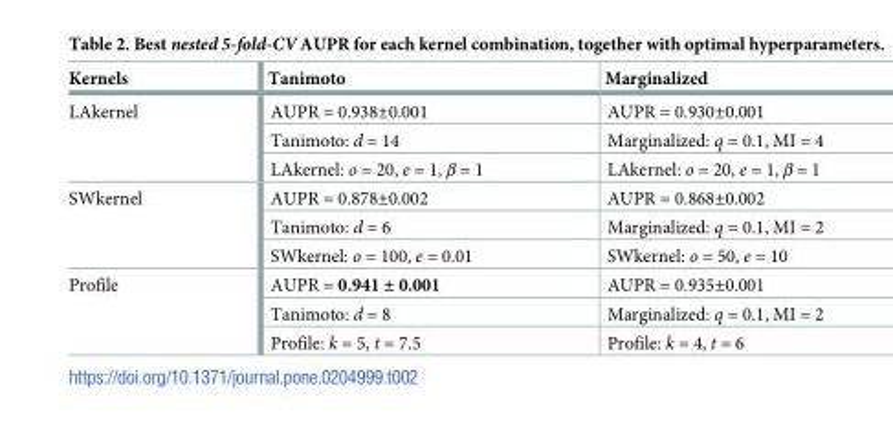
<table><thead><tr><td>Kernels</td><td>Tanimoto</td><td>Marginalized</td></tr></thead><tbody><tr><td rowspan="3">LAkernel</td><td>AUPR = 0.938±0.001</td><td>AUPR = 0.930±0.001</td></tr><tr><td>Tanimoto: d = 14</td><td>Marginalized: q = 0.1, MI = 4</td></tr><tr><td>LAkernel: o = 20, e = 1, β = 1</td><td>LAkernel: o = 20, e = 1, β = 1</td></tr><tr><td rowspan="3">SWkernel</td><td>AUPR = 0.878±0.002</td><td>AUPR = 0.868±0.002</td></tr><tr><td>Tanimoto: d = 6</td><td>Marginalized: q = 0.1, MI = 2</td></tr><tr><td>SWkernel: o = 100, e = 0.01</td><td>SWkernel: o = 50, e = 10</td></tr><tr><td rowspan="3">Profile</td><td>AUPR = 0.941 ± 0.001</td><td>AUPR = 0.935±0.001</td></tr><tr><td>Tanimoto: d = 8</td><td>Marginalized: q = 0.1, MI = 2</td></tr><tr><td>Profile: k = 5, t = 7.5</td><td>Profile: k = 4, t = 6</td></tr></tbody></table>